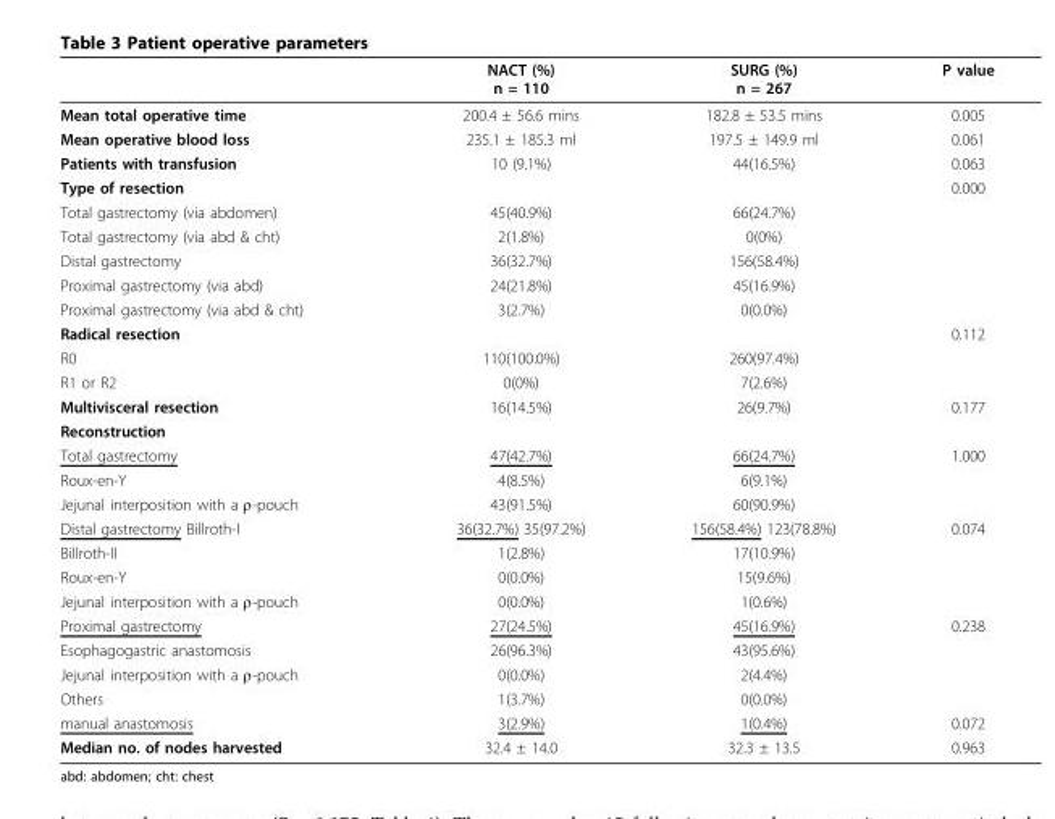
<table><thead><tr><td></td><td>NACT (%) n = 110</td><td>SURG (%) n = 267</td><td>P value</td></tr></thead><tbody><tr><td>Mean total operative time</td><td>200.4 ± 56.6 mins</td><td>182.8 ± 53.5 mins</td><td>0.005</td></tr><tr><td>Mean operative blood loss</td><td>235.1 ± 185.3 ml</td><td>197.5 ± 149.9 ml</td><td>0.061</td></tr><tr><td>Patients with transfusion</td><td>10 (9.1%)</td><td>44(16.5%)</td><td>0.063</td></tr><tr><td>Type of resection</td><td></td><td></td><td>0.000</td></tr><tr><td>Total gastrectomy (via abdomen)</td><td>45(40.9%)</td><td>66(24.7%)</td><td></td></tr><tr><td>Total gastrectomy (via abd &amp; cht)</td><td>2(1.8%)</td><td>0(0%)</td><td></td></tr><tr><td>Distal gastrectomy</td><td>36(32.7%)</td><td>156(58.4%)</td><td></td></tr><tr><td>Proximal gastrectomy (via abd)</td><td>24(21.8%)</td><td>45(16.9%)</td><td></td></tr><tr><td>Proximal gastrectomy (via abd &amp; cht)</td><td>3(2.7%)</td><td>0(0.0%)</td><td></td></tr><tr><td>Radical resection</td><td></td><td></td><td>0.112</td></tr><tr><td>R0</td><td>110(100.0%)</td><td>260(97.4%)</td><td></td></tr><tr><td>R1 or R2</td><td>0(0%)</td><td>7(2.6%)</td><td></td></tr><tr><td>Multivisceral resection</td><td>16(14.5%)</td><td>26(9.7%)</td><td>0.177</td></tr><tr><td colspan="4">Reconstruction</td></tr><tr><td>Total gastrectomy</td><td>47(42.7%)</td><td>66(24.7%)</td><td>1.000</td></tr><tr><td>Roux-en-Y</td><td>4(8.5%)</td><td>6(9.1%)</td><td></td></tr><tr><td>Jejunal interposition with a ρ-pouch</td><td>43(91.5%)</td><td>60(90.9%)</td><td></td></tr><tr><td>Distal gastrectomy Billroth-I</td><td>36(32.7%) 35(97.2%)</td><td>156(58.4%) 123(78.8%)</td><td>0.074</td></tr><tr><td>Billroth-II</td><td>1(2.8%)</td><td>17(10.9%)</td><td></td></tr><tr><td>Roux-en-Y</td><td>0(0.0%)</td><td>15(9.6%)</td><td></td></tr><tr><td>Jejunal interposition with a ρ-pouch</td><td>0(0.0%)</td><td>1(0.6%)</td><td></td></tr><tr><td>Proximal gastrectomy</td><td>27(24.5%)</td><td>45(16.9%)</td><td>0.238</td></tr><tr><td>Esophagogastric anastomosis</td><td>26(96.3%)</td><td>43(95.6%)</td><td></td></tr><tr><td>Jejunal interposition with a ρ-pouch</td><td>0(0.0%)</td><td>2(4.4%)</td><td></td></tr><tr><td>Others</td><td>1(3.7%)</td><td>0(0.0%)</td><td></td></tr><tr><td>manual anastomosis</td><td>3(2.9%)</td><td>1(0.4%)</td><td>0.072</td></tr><tr><td>Median no. of nodes harvested</td><td>32.4 ± 14.0</td><td>32.3 ± 13.5</td><td>0.963</td></tr></tbody></table>